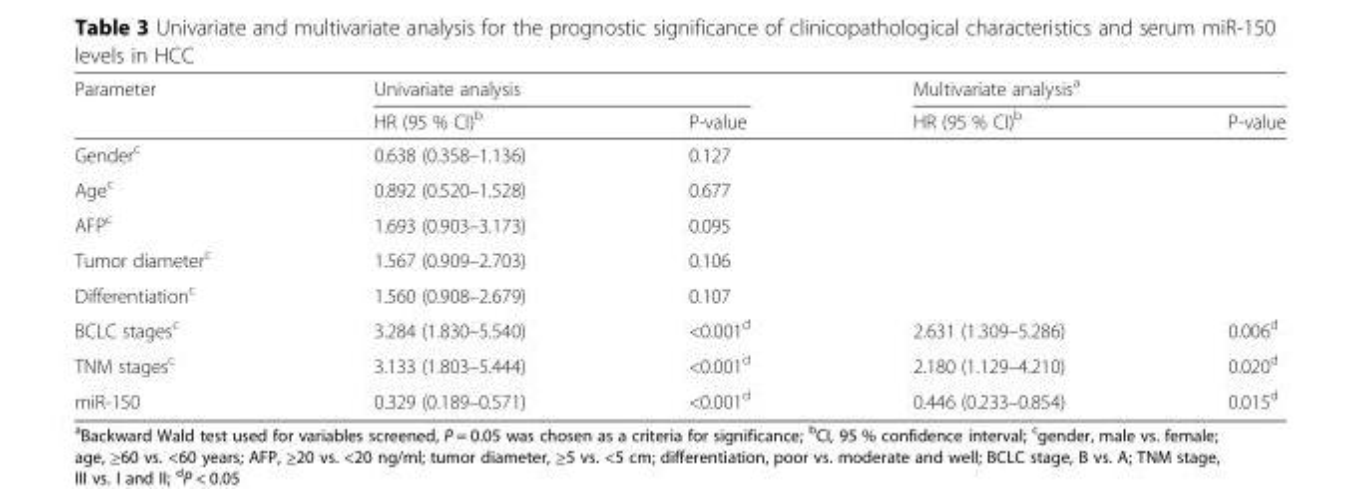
<table><thead><tr><td rowspan="2">Parameter</td><td colspan="2">Univariate analysis</td><td colspan="2">Multivariate analysis<sup>a</sup></td></tr><tr><td>HR (95 % CI)<sup>b</sup></td><td>P-value</td><td>HR (95 % CI)<sup>b</sup></td><td>P-value</td></tr></thead><tbody><tr><td>Gender<sup>c</sup></td><td>0.638 (0.358–1.136)</td><td>0.127</td><td></td><td></td></tr><tr><td>Age<sup>c</sup></td><td>0.892 (0.520–1.528)</td><td>0.677</td><td></td><td></td></tr><tr><td>AFP<sup>c</sup></td><td>1.693 (0.903–3.173)</td><td>0.095</td><td></td><td></td></tr><tr><td>Tumor diameter<sup>c</sup></td><td>1.567 (0.909–2.703)</td><td>0.106</td><td></td><td></td></tr><tr><td>Differentiation<sup>c</sup></td><td>1.560 (0.908–2.679)</td><td>0.107</td><td></td><td></td></tr><tr><td>BCLC stages<sup>c</sup></td><td>3.284 (1.830–5.540)</td><td>&lt;0.001<sup>d</sup></td><td>2.631 (1.309–5.286)</td><td>0.006<sup>d</sup></td></tr><tr><td>TNM stages<sup>c</sup></td><td>3.133 (1.803–5.444)</td><td>&lt;0.001<sup>d</sup></td><td>2.180 (1.129–4.210)</td><td>0.020<sup>d</sup></td></tr><tr><td>miR-150</td><td>0.329 (0.189–0.571)</td><td>&lt;0.001<sup>d</sup></td><td>0.446 (0.233–0.854)</td><td>0.015<sup>d</sup></td></tr></tbody></table>